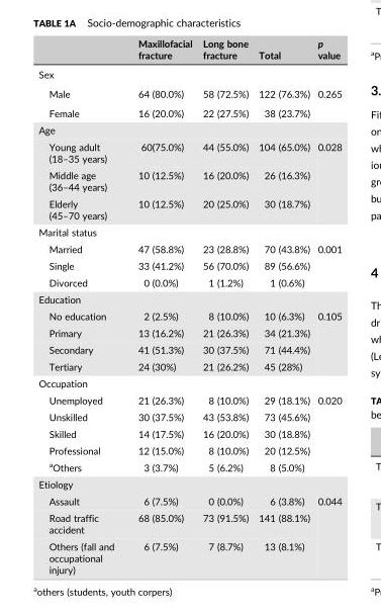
<table><thead><tr><td></td><td>Maxillofacial fracture</td><td>Long bone fracture</td><td>Total</td><td>p value</td></tr></thead><tbody><tr><td colspan="5">Sex</td></tr><tr><td>Male</td><td>64 (80.0%)</td><td>58 (72.5%)</td><td>122 (76.3%)</td><td rowspan="2">0.265</td></tr><tr><td>Female</td><td>16 (20.0%)</td><td>22 (27.5%)</td><td>38 (23.7%)</td></tr><tr><td colspan="5">Age</td></tr><tr><td>Young adult (18–35 years)</td><td>60(75.0%)</td><td>44 (55.0%)</td><td>104 (65.0%)</td><td rowspan="3">0.028</td></tr><tr><td>Middle age (36–44 years)</td><td>10 (12.5%)</td><td>16 (20.0%)</td><td>26 (16.3%)</td></tr><tr><td>Elderly (45–70 years)</td><td>10 (12.5%)</td><td>20 (25.0%)</td><td>30 (18.7%)</td></tr><tr><td colspan="5">Marital status</td></tr><tr><td>Married</td><td>47 (58.8%)</td><td>23 (28.8%)</td><td>70 (43.8%)</td><td rowspan="3">0.001</td></tr><tr><td>Single</td><td>33 (41.2%)</td><td>56 (70.0%)</td><td>89 (56.6%)</td></tr><tr><td>Divorced</td><td>0 (0.0%)</td><td>1 (1.2%)</td><td>1 (0.6%)</td></tr><tr><td colspan="5">Education</td></tr><tr><td>No education</td><td>2 (2.5%)</td><td>8 (10.0%)</td><td>10 (6.3%)</td><td rowspan="4">0.105</td></tr><tr><td>Primary</td><td>13 (16.2%)</td><td>21 (26.3%)</td><td>34 (21.3%)</td></tr><tr><td>Secondary</td><td>41 (51.3%)</td><td>30 (37.5%)</td><td>71 (44.4%)</td></tr><tr><td>Tertiary</td><td>24 (30%)</td><td>21 (26.2%)</td><td>45 (28%)</td></tr><tr><td colspan="5">Occupation</td></tr><tr><td>Unemployed</td><td>21 (26.3%)</td><td>8 (10.0%)</td><td>29 (18.1%)</td><td rowspan="5">0.020</td></tr><tr><td>Unskilled</td><td>30 (37.5%)</td><td>43 (53.8%)</td><td>73 (45.6%)</td></tr><tr><td>Skilled</td><td>14 (17.5%)</td><td>16 (20.0%)</td><td>30 (18.8%)</td></tr><tr><td>Professional</td><td>12 (15.0%)</td><td>8 (10.0%)</td><td>20 (12.5%)</td></tr><tr><td>aOthers</td><td>3 (3.7%)</td><td>5 (6.2%)</td><td>8 (5.0%)</td></tr><tr><td colspan="5">Etiology</td></tr><tr><td>Assault</td><td>6 (7.5%)</td><td>0 (0.0%)</td><td>6 (3.8%)</td><td rowspan="3">0.044</td></tr><tr><td>Road traffic accident</td><td>68 (85.0%)</td><td>73 (91.5%)</td><td>141 (88.1%)</td></tr><tr><td>Others (fall and occupational injury)</td><td>6 (7.5%)</td><td>7 (8.7%)</td><td>13 (8.1%)</td></tr></tbody></table>